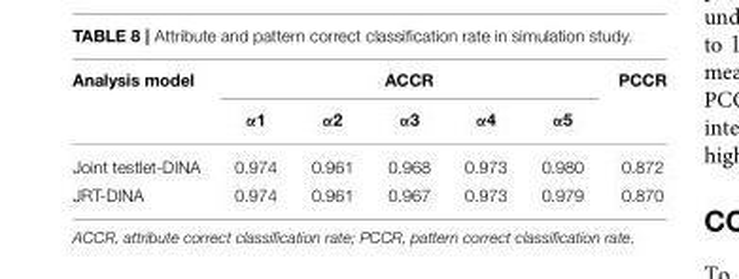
<table><thead><tr><td rowspan="2">Analysis model</td><td colspan="5">ACCR</td><td rowspan="2">PCCR</td></tr><tr><td>α1</td><td>α2</td><td>α3</td><td>α4</td><td>α5</td></tr></thead><tbody><tr><td>Joint testlet-DINA</td><td>0.974</td><td>0.961</td><td>0.968</td><td>0.973</td><td>0.980</td><td>0.872</td></tr><tr><td>JRT-DINA</td><td>0.974</td><td>0.961</td><td>0.967</td><td>0.973</td><td>0.979</td><td>0.870</td></tr></tbody></table>